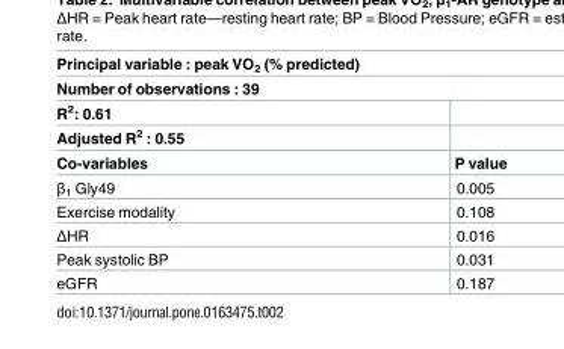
<table><thead><tr><td rowspan="2" colspan="2">Principal variable : peak VO<sub>2</sub> (% predicted) Number of observations : 39</td></tr><tr></tr><tr><td rowspan="3">R<sup>2</sup>: 0.61 Adjusted R<sup>2</sup> : 0.55 Co-variables</td><td rowspan="3">P value</td></tr><tr></tr><tr></tr></thead><tbody><tr><td>β<sub>1</sub> Gly49</td><td>0.005</td></tr><tr><td>Exercise modality</td><td>0.108</td></tr><tr><td>ΔHR</td><td>0.016</td></tr><tr><td>Peak systolic BP</td><td>0.031</td></tr><tr><td>eGFR</td><td>0.187</td></tr></tbody></table>